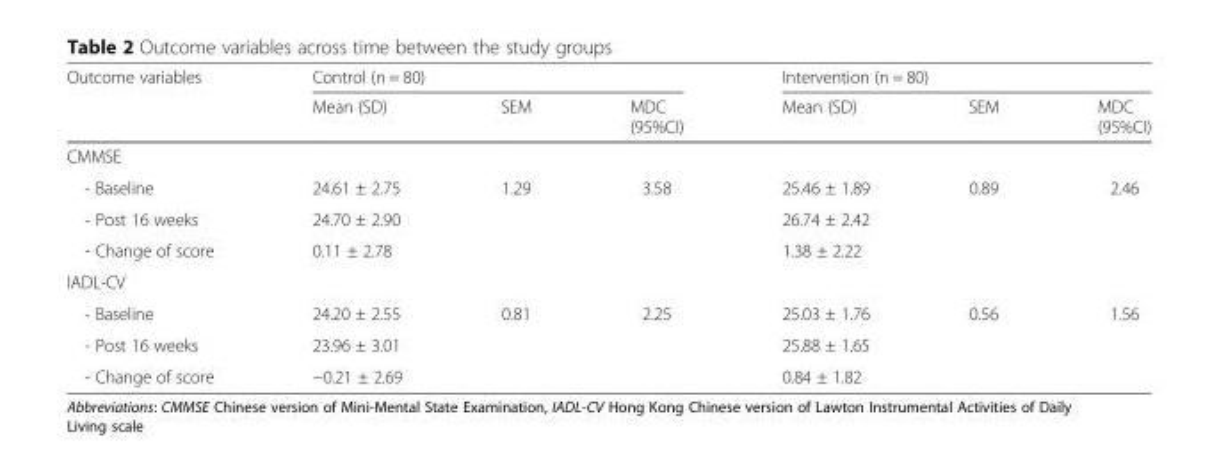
<table><thead><tr><td rowspan="2">Outcome variables</td><td colspan="3">Control (n = 80)</td><td colspan="3">Intervention (n = 80)</td></tr><tr><td>Mean (SD)</td><td>SEM</td><td>MDC (95%CI)</td><td>Mean (SD)</td><td>SEM</td><td>MDC (95%CI)</td></tr></thead><tbody><tr><td colspan="7">CMMSE</td></tr><tr><td>- Baseline</td><td>24.61 ± 2.75</td><td>1.29</td><td>3.58</td><td>25.46 ± 1.89</td><td>0.89</td><td>2.46</td></tr><tr><td>- Post 16 weeks</td><td>24.70 ± 2.90</td><td></td><td></td><td>26.74 ± 2.42</td><td></td><td></td></tr><tr><td>- Change of score</td><td>0.11 ± 2.78</td><td></td><td></td><td>1.38 ± 2.22</td><td></td><td></td></tr><tr><td colspan="7">IADL-CV</td></tr><tr><td>- Baseline</td><td>24.20 ± 2.55</td><td>0.81</td><td>2.25</td><td>25.03 ± 1.76</td><td>0.56</td><td>1.56</td></tr><tr><td>- Post 16 weeks</td><td>23.96 ± 3.01</td><td></td><td></td><td>25.88 ± 1.65</td><td></td><td></td></tr><tr><td>- Change of score</td><td>−0.21 ± 2.69</td><td></td><td></td><td>0.84 ± 1.82</td><td></td><td></td></tr></tbody></table>